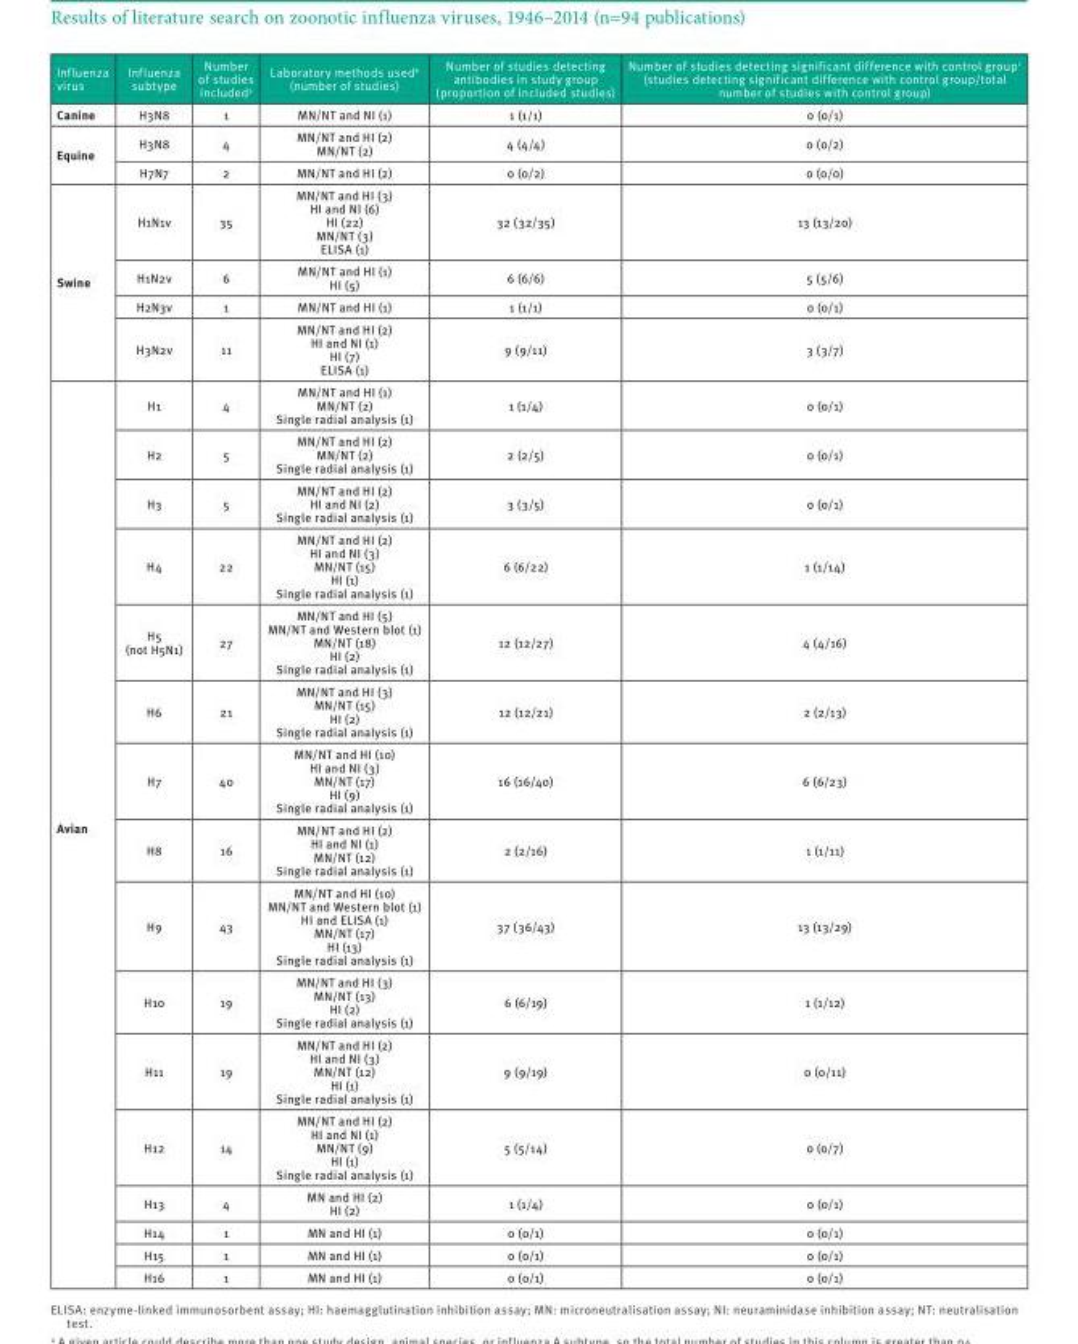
<table><thead><tr><td>Influenza virus</td><td>Influenza subtype</td><td>Number of studies included<sup>a</sup></td><td>Laboratory methods used<sup>b</sup> (number of studies)</td><td>Number of studies detecting antibodies in study group (proportion of included studies)</td><td>Number of studies detecting significant difference with control group<sup>c</sup> (studies detecting significant difference with control group/total number of studies with control group)</td></tr></thead><tbody><tr><td>Canine</td><td>H3N8</td><td>1</td><td>MN/NT and NI (1)</td><td>1 (1/1)</td><td>0 (0/1)</td></tr><tr><td rowspan="2">Equine</td><td>H3N8</td><td>4</td><td>MN/NT and HI (2) MN/NT (2)</td><td>4 (4/4)</td><td>0 (0/2)</td></tr><tr><td>H7N7</td><td>2</td><td>MN/NT and HI (2)</td><td>0 (0/2)</td><td>0 (0/0)</td></tr><tr><td rowspan="4">Swine</td><td>H1N1v</td><td>35</td><td>MN/NT and HI (3) HI and NI (6) HI (22) MN/NT (3) ELISA (1)</td><td>32 (32/35)</td><td>13 (13/20)</td></tr><tr><td>H1N2v</td><td>6</td><td>MN/NT and HI (1) HI (5)</td><td>6 (6/6)</td><td>5 (5/6)</td></tr><tr><td>H2N3v</td><td>1</td><td>MN/NT and HI (1)</td><td>1 (1/1)</td><td>0 (0/1)</td></tr><tr><td>H3N2v</td><td>11</td><td>MN/NT and HI (2) HI and NI (1) HI (7) ELISA (1)</td><td>9 (9/11)</td><td>3 (3/7)</td></tr><tr><td rowspan="16">Avian</td><td>H1</td><td>4</td><td>MN/NT and HI (1) MN/NT (2) Single radial analysis (1)</td><td>1 (1/4)</td><td>0 (0/1)</td></tr><tr><td>H2</td><td>5</td><td>MN/NT and HI (2) MN/NT (2) Single radial analysis (1)</td><td>2 (2/5)</td><td>0 (0/1)</td></tr><tr><td>H3</td><td>5</td><td>MN/NT and HI (2) HI and NI (2) Single radial analysis (1)</td><td>3 (3/5)</td><td>0 (0/1)</td></tr><tr><td>H4</td><td>22</td><td>MN/NT and HI (2) HI and NI (3) MN/NT (15) HI (1) Single radial analysis (1)</td><td>6 (6/22)</td><td>1 (1/14)</td></tr><tr><td>H5 (not H5N1)</td><td>27</td><td>MN/NT and HI (5) MN/NT and Western blot (1) MN/NT (18) HI (2) Single radial analysis (1)</td><td>12 (12/27)</td><td>4 (4/16)</td></tr><tr><td>H6</td><td>21</td><td>MN/NT and HI (3) MN/NT (15) HI (2) Single radial analysis (1)</td><td>12 (12/21)</td><td>2 (2/13)</td></tr><tr><td>H7</td><td>40</td><td>MN/NT and HI (10) HI and NI (3) MN/NT (17) HI (9) Single radial analysis (1)</td><td>16 (16/40)</td><td>6 (6/23)</td></tr><tr><td>H8</td><td>16</td><td>MN/NT and HI (2) HI and NI (1) MN/NT (12) Single radial analysis (1)</td><td>2 (2/16)</td><td>1 (1/11)</td></tr><tr><td>H9</td><td>43</td><td>MN/NT and HI (10) MN/NT and Western blot (1) HI and ELISA (1) MN/NT (17) HI (13) Single radial analysis (1)</td><td>37 (36/43)</td><td>13 (13/29)</td></tr><tr><td>H10</td><td>19</td><td>MN/NT and HI (3) MN/NT (13) HI (2) Single radial analysis (1)</td><td>6 (6/19)</td><td>1 (1/12)</td></tr><tr><td>H11</td><td>19</td><td>MN/NT and HI (2) HI and NI (3) MN/NT (12) HI (1) Single radial analysis (1)</td><td>9 (9/19)</td><td>0 (0/11)</td></tr><tr><td>H12</td><td>14</td><td>MN/NT and HI (2) HI and NI (1) MN/NT (9) HI (1) Single radial analysis (1)</td><td>5 (5/14)</td><td>0 (0/7)</td></tr><tr><td>H13</td><td>4</td><td>MN and HI (2) HI (2)</td><td>1 (1/4)</td><td>0 (0/1)</td></tr><tr><td>H14</td><td>1</td><td>MN and HI (1)</td><td>0 (0/1)</td><td>0 (0/1)</td></tr><tr><td>H15</td><td>1</td><td>MN and HI (1)</td><td>0 (0/1)</td><td>0 (0/1)</td></tr><tr><td>H16</td><td>1</td><td>MN and HI (1)</td><td>0 (0/1)</td><td>0 (0/1)</td></tr></tbody></table>